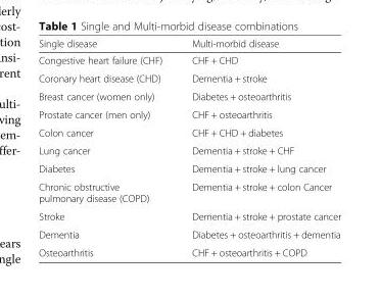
<table><thead><tr><td>Single disease</td><td>Multi-morbid disease</td></tr></thead><tbody><tr><td>Congestive heart failure (CHF)</td><td>CHF + CHD</td></tr><tr><td>Coronary heart disease (CHD)</td><td>Dementia + stroke</td></tr><tr><td>Breast cancer (women only)</td><td>Diabetes + osteoarthritis</td></tr><tr><td>Prostate cancer (men only)</td><td>CHF + osteoarthritis</td></tr><tr><td>Colon cancer</td><td>CHF + CHD + diabetes</td></tr><tr><td>Lung cancer</td><td>Dementia + stroke + CHF</td></tr><tr><td>Diabetes</td><td>Dementia + stroke + lung cancer</td></tr><tr><td>Chronic obstructive pulmonary disease (COPD)</td><td>Dementia + stroke + colon Cancer</td></tr><tr><td>Stroke</td><td>Dementia + stroke + prostate cancer</td></tr><tr><td>Dementia</td><td>Diabetes + osteoarthritis + dementia</td></tr><tr><td>Osteoarthritis</td><td>CHF + osteoarthritis + COPD</td></tr></tbody></table>